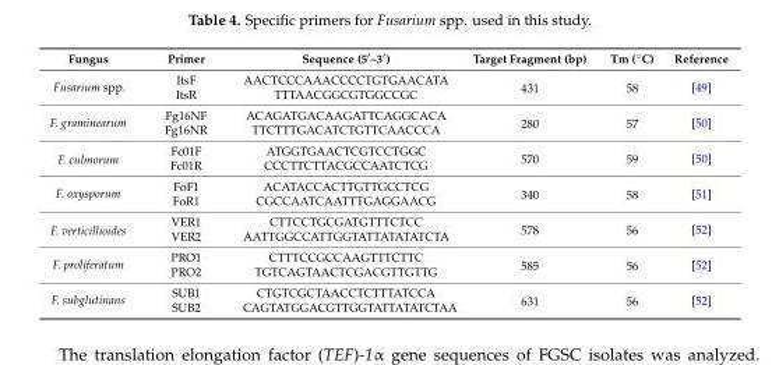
<table><thead><tr><td>Fungus</td><td>Primer</td><td>Sequence (5′–3′)</td><td>Target Fragment (bp)</td><td>Tm (˝C)</td><td>Reference</td></tr></thead><tbody><tr><td rowspan="2">Fusarium spp.</td><td>ItsF</td><td>AACTCCCAAACCCCTGTGAACATA</td><td rowspan="2">431</td><td rowspan="2">58</td><td rowspan="2">[49]</td></tr><tr><td>ItsR</td><td>TTTAACGGCGTGGCCGC</td></tr><tr><td rowspan="2">F. graminearum</td><td>Fg16NF</td><td>ACAGATGACAAGATTCAGGCACA</td><td rowspan="2">280</td><td rowspan="2">57</td><td rowspan="2">[50]</td></tr><tr><td>Fg16NR</td><td>TTCTTTGACATCTGTTCAACCCA</td></tr><tr><td rowspan="2">F. culmorum</td><td>Fc01F</td><td>ATGGTGAACTCGTCCTGGC</td><td rowspan="2">570</td><td rowspan="2">59</td><td rowspan="2">[50]</td></tr><tr><td>Fc01R</td><td>CCCTTCTTACGCCAATCTCG</td></tr><tr><td rowspan="2">F. oxysporum</td><td>FoF1</td><td>ACATACCACTTGTTGCCTCG</td><td rowspan="2">340</td><td rowspan="2">58</td><td rowspan="2">[51]</td></tr><tr><td>FoR1</td><td>CGCCAATCAATTTGAGGAACG</td></tr><tr><td rowspan="2">F. verticillioides</td><td>VER1</td><td>CTTCCTGCGATGTTTCTCC</td><td rowspan="2">578</td><td rowspan="2">56</td><td rowspan="2">[52]</td></tr><tr><td>VER2</td><td>AATTGGCCATTGGTATTATATATCTA</td></tr><tr><td rowspan="2">F. proliferatum</td><td>PRO1</td><td>CTTTCCGCCAAGTTTCTTC</td><td rowspan="2">585</td><td rowspan="2">56</td><td rowspan="2">[52]</td></tr><tr><td>PRO2</td><td>TGTCAGTAACTCGACGTTGTTG</td></tr><tr><td rowspan="2">F. subglutinans</td><td>SUB1</td><td>CTGTCGCTAACCTCTTTATCCA</td><td rowspan="2">631</td><td rowspan="2">56</td><td rowspan="2">[52]</td></tr><tr><td>SUB2</td><td>CAGTATGGACGTTGGTATTATATCTAA</td></tr></tbody></table>